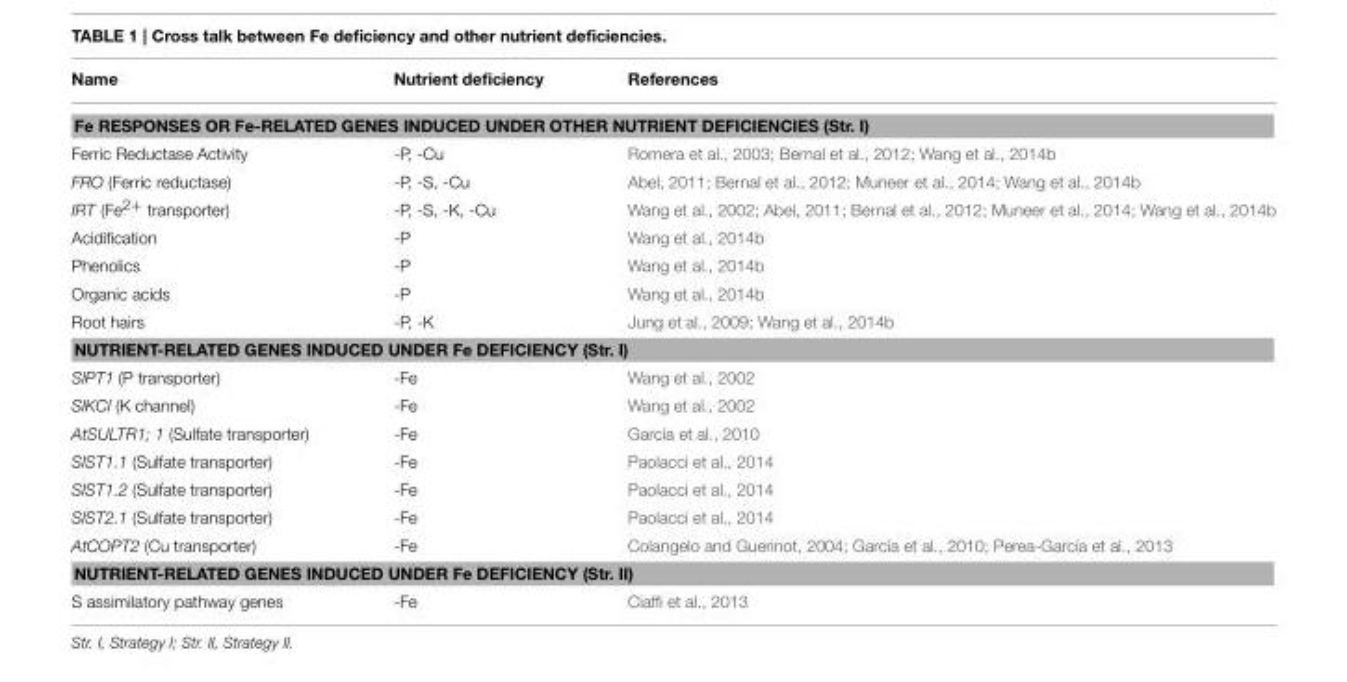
<table><thead><tr><td>Name</td><td>Nutrient deficiency</td><td>References</td></tr></thead><tbody><tr><td colspan="3">Fe RESPONSES OR Fe-RELATED GENES INDUCED UNDER OTHER NUTRIENT DEFICIENCIES (Str. I)</td></tr><tr><td>Ferric Reductase Activity</td><td>-P, -Cu</td><td>Romera et al., 2003; Bernal et al., 2012; Wang et al., 2014b</td></tr><tr><td>FRO (Ferric reductase)</td><td>-P, -S, -Cu</td><td>Abel, 2011; Bernal et al., 2012; Muneer et al., 2014; Wang et al., 2014b</td></tr><tr><td>IRT (Fe<sup>2+</sup> transporter)</td><td>-P, -S, -K, -Cu</td><td>Wang et al., 2002; Abel, 2011; Bernal et al., 2012; Muneer et al., 2014; Wang et al., 2014b</td></tr><tr><td>Acidification</td><td>-P</td><td>Wang et al., 2014b</td></tr><tr><td>Phenolics</td><td>-P</td><td>Wang et al., 2014b</td></tr><tr><td>Organic acids</td><td>-P</td><td>Wang et al., 2014b</td></tr><tr><td>Root hairs</td><td>-P, -K</td><td>Jung et al., 2009; Wang et al., 2014b</td></tr><tr><td colspan="3">NUTRIENT-RELATED GENES INDUCED UNDER Fe DEFICIENCY (Str. I)</td></tr><tr><td>SlPT1 (P transporter)</td><td>-Fe</td><td>Wang et al., 2002</td></tr><tr><td>SlKCl (K channel)</td><td>-Fe</td><td>Wang et al., 2002</td></tr><tr><td>AtSULTR1; 1 (Sulfate transporter)</td><td>-Fe</td><td>García et al., 2010</td></tr><tr><td>SlST1.1 (Sulfate transporter)</td><td>-Fe</td><td>Paolacci et al., 2014</td></tr><tr><td>SlST1.2 (Sulfate transporter)</td><td>-Fe</td><td>Paolacci et al., 2014</td></tr><tr><td>SlST2.1 (Sulfate transporter)</td><td>-Fe</td><td>Paolacci et al., 2014</td></tr><tr><td>AtCOPT2 (Cu transporter)</td><td>-Fe</td><td>Colangelo and Guerinot, 2004; García et al., 2010; Perea-García et al., 2013</td></tr><tr><td colspan="3">NUTRIENT-RELATED GENES INDUCED UNDER Fe DEFICIENCY (Str. II)</td></tr><tr><td>S assimilatory pathway genes</td><td>-Fe</td><td>Ciaffi et al., 2013</td></tr></tbody></table>